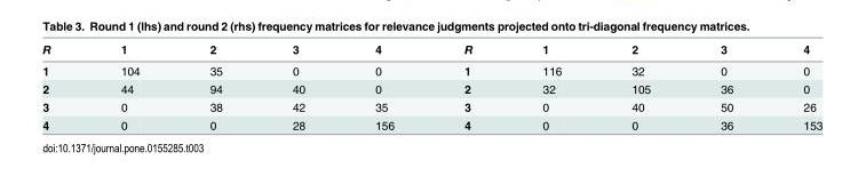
<table><thead><tr><td>R</td><td>1</td><td>2</td><td>3</td><td>4</td><td>R</td><td>1</td><td>2</td><td>3</td><td>4</td></tr></thead><tbody><tr><td>1</td><td>104</td><td>35</td><td>0</td><td>0</td><td>1</td><td>116</td><td>32</td><td>0</td><td>0</td></tr><tr><td>2</td><td>44</td><td>94</td><td>40</td><td>0</td><td>2</td><td>32</td><td>105</td><td>36</td><td>0</td></tr><tr><td>3</td><td>0</td><td>38</td><td>42</td><td>35</td><td>3</td><td>0</td><td>40</td><td>50</td><td>26</td></tr><tr><td>4</td><td>0</td><td>0</td><td>28</td><td>156</td><td>4</td><td>0</td><td>0</td><td>36</td><td>153</td></tr></tbody></table>